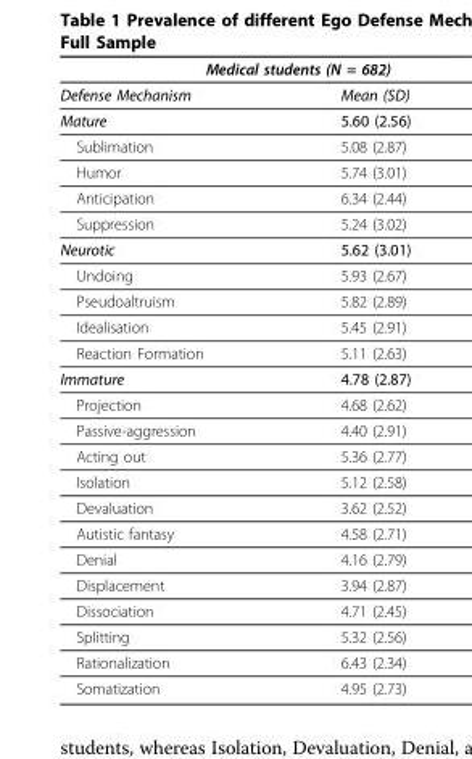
<table><thead><tr><td colspan="2">Medical students (N = 682)</td></tr><tr><td>Defense Mechanism</td><td>Mean (SD)</td></tr></thead><tbody><tr><td>Mature</td><td>5.60 (2.56)</td></tr><tr><td>Sublimation</td><td>5.08 (2.87)</td></tr><tr><td>Humor</td><td>5.74 (3.01)</td></tr><tr><td>Anticipation</td><td>6.34 (2.44)</td></tr><tr><td>Suppression</td><td>5.24 (3.02)</td></tr><tr><td>Neurotic</td><td>5.62 (3.01)</td></tr><tr><td>Undoing</td><td>5.93 (2.67)</td></tr><tr><td>Pseudoaltruism</td><td>5.82 (2.89)</td></tr><tr><td>Idealisation</td><td>5.45 (2.91)</td></tr><tr><td>Reaction Formation</td><td>5.11 (2.63)</td></tr><tr><td>Immature</td><td>4.78 (2.87)</td></tr><tr><td>Projection</td><td>4.68 (2.62)</td></tr><tr><td>Passive-aggression</td><td>4.40 (2.91)</td></tr><tr><td>Acting out</td><td>5.36 (2.77)</td></tr><tr><td>Isolation</td><td>5.12 (2.58)</td></tr><tr><td>Devaluation</td><td>3.62 (2.52)</td></tr><tr><td>Autistic fantasy</td><td>4.58 (2.71)</td></tr><tr><td>Denial</td><td>4.16 (2.79)</td></tr><tr><td>Displacement</td><td>3.94 (2.87)</td></tr><tr><td>Dissociation</td><td>4.71 (2.45)</td></tr><tr><td>Splitting</td><td>5.32 (2.56)</td></tr><tr><td>Rationalization</td><td>6.43 (2.34)</td></tr><tr><td>Somatization</td><td>4.95 (2.73)</td></tr></tbody></table>